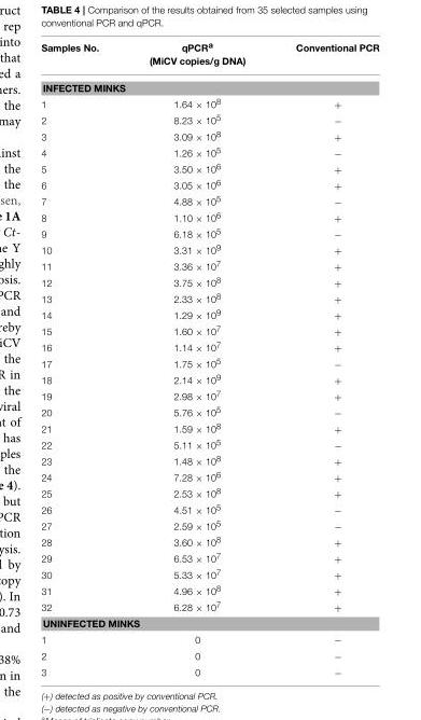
<table><thead><tr><td>Samples No.</td><td>qPCR<sup>a</sup> (MiCV copies/g DNA)</td><td>Conventional PCR</td></tr></thead><tbody><tr><td colspan="3">INFECTED MINKS</td></tr><tr><td>1</td><td>1.64 × 10<sup>8</sup></td><td>+</td></tr><tr><td>2</td><td>8.23 × 10<sup>5</sup></td><td>−</td></tr><tr><td>3</td><td>3.09 × 10<sup>8</sup></td><td>+</td></tr><tr><td>4</td><td>1.26 × 10<sup>5</sup></td><td>−</td></tr><tr><td>5</td><td>3.50 × 10<sup>6</sup></td><td>+</td></tr><tr><td>6</td><td>3.05 × 10<sup>6</sup></td><td>+</td></tr><tr><td>7</td><td>4.88 × 10<sup>5</sup></td><td>−</td></tr><tr><td>8</td><td>1.10 × 10<sup>6</sup></td><td>+</td></tr><tr><td>9</td><td>6.18 × 10<sup>5</sup></td><td>−</td></tr><tr><td>10</td><td>3.31 × 10<sup>9</sup></td><td>+</td></tr><tr><td>11</td><td>3.36 × 10<sup>7</sup></td><td>+</td></tr><tr><td>12</td><td>3.75 × 10<sup>8</sup></td><td>+</td></tr><tr><td>13</td><td>2.33 × 10<sup>8</sup></td><td>+</td></tr><tr><td>14</td><td>1.29 × 10<sup>9</sup></td><td>+</td></tr><tr><td>15</td><td>1.60 × 10<sup>7</sup></td><td>+</td></tr><tr><td>16</td><td>1.14 × 10<sup>7</sup></td><td>+</td></tr><tr><td>17</td><td>1.75 × 10<sup>5</sup></td><td>−</td></tr><tr><td>18</td><td>2.14 × 10<sup>9</sup></td><td>+</td></tr><tr><td>19</td><td>2.98 × 10<sup>7</sup></td><td>+</td></tr><tr><td>20</td><td>5.76 × 10<sup>5</sup></td><td>−</td></tr><tr><td>21</td><td>1.59 × 10<sup>8</sup></td><td>+</td></tr><tr><td>22</td><td>5.11 × 10<sup>5</sup></td><td>−</td></tr><tr><td>23</td><td>1.48 × 10<sup>8</sup></td><td>+</td></tr><tr><td>24</td><td>7.28 × 10<sup>6</sup></td><td>+</td></tr><tr><td>25</td><td>2.53 × 10<sup>8</sup></td><td>+</td></tr><tr><td>26</td><td>4.51 × 10<sup>5</sup></td><td>−</td></tr><tr><td>27</td><td>2.59 × 10<sup>5</sup></td><td>−</td></tr><tr><td>28</td><td>3.60 × 10<sup>8</sup></td><td>+</td></tr><tr><td>29</td><td>6.53 × 10<sup>7</sup></td><td>+</td></tr><tr><td>30</td><td>5.33 × 10<sup>7</sup></td><td>+</td></tr><tr><td>31</td><td>4.96 × 10<sup>8</sup></td><td>+</td></tr><tr><td>32</td><td>6.28 × 10<sup>7</sup></td><td>+</td></tr><tr><td colspan="3">UNINFECTED MINKS</td></tr><tr><td>1</td><td>0</td><td>−</td></tr><tr><td>2</td><td>0</td><td>−</td></tr><tr><td>3</td><td>0</td><td>−</td></tr></tbody></table>